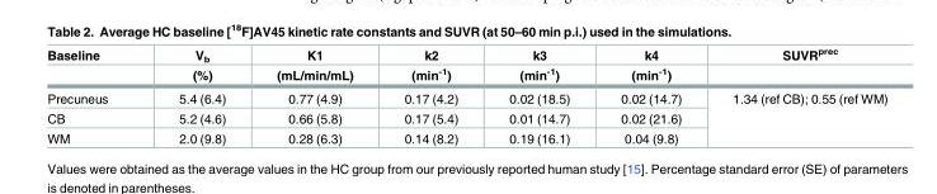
<table><thead><tr><td rowspan="2">Baseline</td><td rowspan="2">V<sub>b</sub> (%)</td><td rowspan="2">K1 (mL/min/mL)</td><td rowspan="2">k2 (min<sup>-1</sup>)</td><td rowspan="2">k3 (min<sup>-1</sup>)</td><td rowspan="2">k4 (min<sup>-1</sup>)</td><td rowspan="2">SUVR<sup>prec</sup></td></tr><tr></tr></thead><tbody><tr><td>Precuneus</td><td>5.4 (6.4)</td><td>0.77 (4.9)</td><td>0.17 (4.2)</td><td>0.02 (18.5)</td><td>0.02 (14.7)</td><td rowspan="3">1.34 (ref CB); 0.55 (ref WM)</td></tr><tr><td>CB</td><td>5.2 (4.6)</td><td>0.66 (5.8)</td><td>0.17 (5.4)</td><td>0.01 (14.7)</td><td>0.02 (21.6)</td></tr><tr><td>WM</td><td>2.0 (9.8)</td><td>0.28 (6.3)</td><td>0.14 (8.2)</td><td>0.19 (16.1)</td><td>0.04 (9.8)</td></tr></tbody></table>